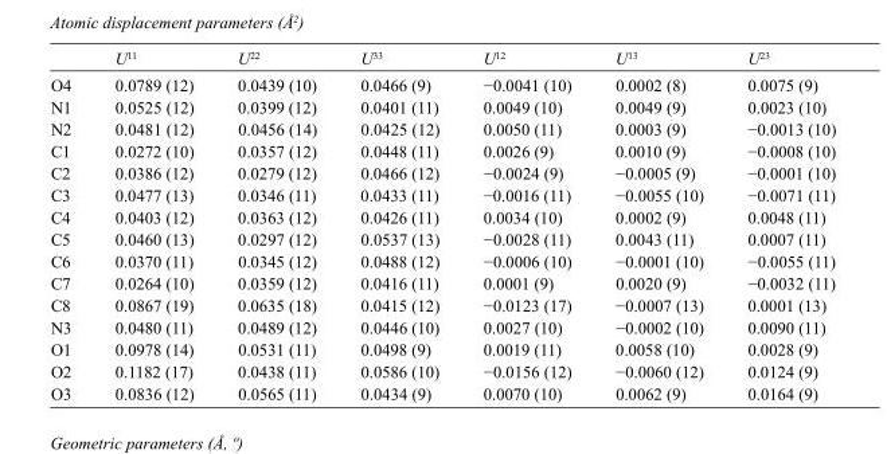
<table><thead><tr><td></td><td>U<sup>11</sup></td><td>U<sup>22</sup></td><td>U<sup>33</sup></td><td>U<sup>12</sup></td><td>U<sup>13</sup></td><td>U<sup>23</sup></td></tr></thead><tbody><tr><td>O4</td><td>0.0789 (12)</td><td>0.0439 (10)</td><td>0.0466 (9)</td><td>−0.0041 (10)</td><td>0.0002 (8)</td><td>0.0075 (9)</td></tr><tr><td>N1</td><td>0.0525 (12)</td><td>0.0399 (12)</td><td>0.0401 (11)</td><td>0.0049 (10)</td><td>0.0049 (9)</td><td>0.0023 (10)</td></tr><tr><td>N2</td><td>0.0481 (12)</td><td>0.0456 (14)</td><td>0.0425 (12)</td><td>0.0050 (11)</td><td>0.0003 (9)</td><td>−0.0013 (10)</td></tr><tr><td>C1</td><td>0.0272 (10)</td><td>0.0357 (12)</td><td>0.0448 (11)</td><td>0.0026 (9)</td><td>0.0010 (9)</td><td>−0.0008 (10)</td></tr><tr><td>C2</td><td>0.0386 (12)</td><td>0.0279 (12)</td><td>0.0466 (12)</td><td>−0.0024 (9)</td><td>−0.0005 (9)</td><td>−0.0001 (10)</td></tr><tr><td>C3</td><td>0.0477 (13)</td><td>0.0346 (11)</td><td>0.0433 (11)</td><td>−0.0016 (11)</td><td>−0.0055 (10)</td><td>−0.0071 (11)</td></tr><tr><td>C4</td><td>0.0403 (12)</td><td>0.0363 (12)</td><td>0.0426 (11)</td><td>0.0034 (10)</td><td>0.0002 (9)</td><td>0.0048 (11)</td></tr><tr><td>C5</td><td>0.0460 (13)</td><td>0.0297 (12)</td><td>0.0537 (13)</td><td>−0.0028 (11)</td><td>0.0043 (11)</td><td>0.0007 (11)</td></tr><tr><td>C6</td><td>0.0370 (11)</td><td>0.0345 (12)</td><td>0.0488 (12)</td><td>−0.0006 (10)</td><td>−0.0001 (10)</td><td>−0.0055 (11)</td></tr><tr><td>C7</td><td>0.0264 (10)</td><td>0.0359 (12)</td><td>0.0416 (11)</td><td>0.0001 (9)</td><td>0.0020 (9)</td><td>−0.0032 (11)</td></tr><tr><td>C8</td><td>0.0867 (19)</td><td>0.0635 (18)</td><td>0.0415 (12)</td><td>−0.0123 (17)</td><td>−0.0007 (13)</td><td>0.0001 (13)</td></tr><tr><td>N3</td><td>0.0480 (11)</td><td>0.0489 (12)</td><td>0.0446 (10)</td><td>0.0027 (10)</td><td>−0.0002 (10)</td><td>0.0090 (11)</td></tr><tr><td>O1</td><td>0.0978 (14)</td><td>0.0531 (11)</td><td>0.0498 (9)</td><td>0.0019 (11)</td><td>0.0058 (10)</td><td>0.0028 (9)</td></tr><tr><td>O2</td><td>0.1182 (17)</td><td>0.0438 (11)</td><td>0.0586 (10)</td><td>−0.0156 (12)</td><td>−0.0060 (12)</td><td>0.0124 (9)</td></tr><tr><td>O3</td><td>0.0836 (12)</td><td>0.0565 (11)</td><td>0.0434 (9)</td><td>0.0070 (10)</td><td>0.0062 (9)</td><td>0.0164 (9)</td></tr></tbody></table>